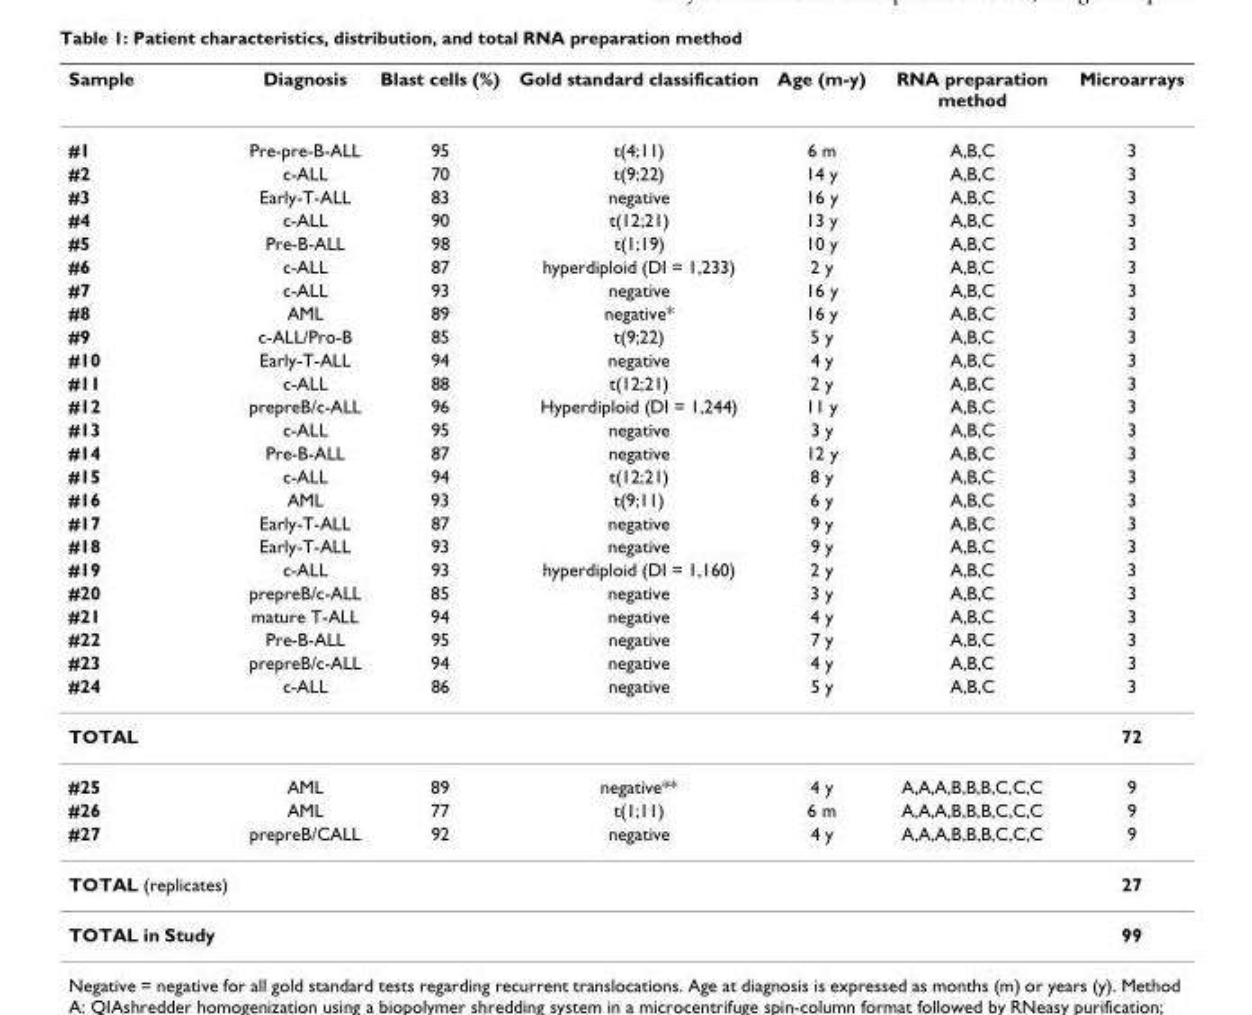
<table><thead><tr><td>Sample</td><td>Diagnosis</td><td>Blast cells (%)</td><td>Gold standard classification</td><td>Age (m-y)</td><td>RNA preparation method</td><td>Microarrays</td></tr></thead><tbody><tr><td>#1</td><td>Pre-pre-B-ALL</td><td>95</td><td>t(4;11)</td><td>6 m</td><td>A,B,C</td><td>3</td></tr><tr><td>#2</td><td>c-ALL</td><td>70</td><td>t(9;22)</td><td>14 y</td><td>A,B,C</td><td>3</td></tr><tr><td>#3</td><td>Early-T-ALL</td><td>83</td><td>negative</td><td>16 y</td><td>A,B,C</td><td>3</td></tr><tr><td>#4</td><td>c-ALL</td><td>90</td><td>t(12;21)</td><td>13 y</td><td>A,B,C</td><td>3</td></tr><tr><td>#5</td><td>Pre-B-ALL</td><td>98</td><td>t(1;19)</td><td>10 y</td><td>A,B,C</td><td>3</td></tr><tr><td>#6</td><td>c-ALL</td><td>87</td><td>hyperdiploid (DI = 1,233)</td><td>2 y</td><td>A,B,C</td><td>3</td></tr><tr><td>#7</td><td>c-ALL</td><td>93</td><td>negative</td><td>16 y</td><td>A,B,C</td><td>3</td></tr><tr><td>#8</td><td>AML</td><td>89</td><td>negative*</td><td>16 y</td><td>A,B,C</td><td>3</td></tr><tr><td>#9</td><td>c-ALL/Pro-B</td><td>85</td><td>t(9;22)</td><td>5 y</td><td>A,B,C</td><td>3</td></tr><tr><td>#10</td><td>Early-T-ALL</td><td>94</td><td>negative</td><td>4 y</td><td>A,B,C</td><td>3</td></tr><tr><td>#11</td><td>c-ALL</td><td>88</td><td>t(12;21)</td><td>2 y</td><td>A,B,C</td><td>3</td></tr><tr><td>#12</td><td>prepreB/c-ALL</td><td>96</td><td>Hyperdiploid (DI = 1,244)</td><td>11 y</td><td>A,B,C</td><td>3</td></tr><tr><td>#13</td><td>c-ALL</td><td>95</td><td>negative</td><td>3 y</td><td>A,B,C</td><td>3</td></tr><tr><td>#14</td><td>Pre-B-ALL</td><td>87</td><td>negative</td><td>12 y</td><td>A,B,C</td><td>3</td></tr><tr><td>#15</td><td>c-ALL</td><td>94</td><td>t(12;21)</td><td>8 y</td><td>A,B,C</td><td>3</td></tr><tr><td>#16</td><td>AML</td><td>93</td><td>t(9;11)</td><td>6 y</td><td>A,B,C</td><td>3</td></tr><tr><td>#17</td><td>Early-T-ALL</td><td>87</td><td>negative</td><td>9 y</td><td>A,B,C</td><td>3</td></tr><tr><td>#18</td><td>Early-T-ALL</td><td>93</td><td>negative</td><td>9 y</td><td>A,B,C</td><td>3</td></tr><tr><td>#19</td><td>c-ALL</td><td>93</td><td>hyperdiploid (DI = 1,160)</td><td>2 y</td><td>A,B,C</td><td>3</td></tr><tr><td>#20</td><td>prepreB/c-ALL</td><td>85</td><td>negative</td><td>3 y</td><td>A,B,C</td><td>3</td></tr><tr><td>#21</td><td>mature T-ALL</td><td>94</td><td>negative</td><td>4 y</td><td>A,B,C</td><td>3</td></tr><tr><td>#22</td><td>Pre-B-ALL</td><td>95</td><td>negative</td><td>7 y</td><td>A,B,C</td><td>3</td></tr><tr><td>#23</td><td>prepreB/c-ALL</td><td>94</td><td>negative</td><td>4 y</td><td>A,B,C</td><td>3</td></tr><tr><td>#24</td><td>c-ALL</td><td>86</td><td>negative</td><td>5 y</td><td>A,B,C</td><td>3</td></tr><tr><td>TOTAL</td><td></td><td></td><td></td><td></td><td></td><td>72</td></tr><tr><td>#25</td><td>AML</td><td>89</td><td>negative**</td><td>4 y</td><td>A,A,A,B,B,B,C,C,C</td><td>9</td></tr><tr><td>#26</td><td>AML</td><td>77</td><td>t(1;11)</td><td>6 m</td><td>A,A,A,B,B,B,C,C,C</td><td>9</td></tr><tr><td>#27</td><td>prepreB/CALL</td><td>92</td><td>negative</td><td>4 y</td><td>A,A,A,B,B,B,C,C,C</td><td>9</td></tr><tr><td>TOTAL (replicates)</td><td></td><td></td><td></td><td></td><td></td><td>27</td></tr><tr><td>TOTAL in Study</td><td></td><td></td><td></td><td></td><td></td><td>99</td></tr></tbody></table>